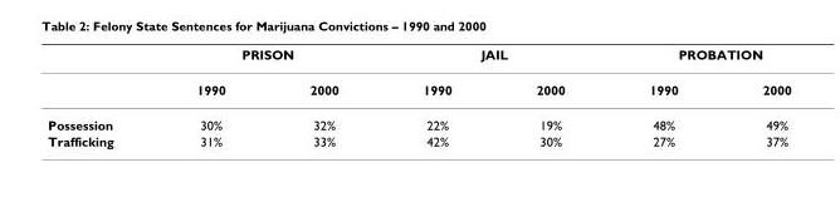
<table><thead><tr><td rowspan="2"></td><td colspan="2">PRISON</td><td colspan="2">JAIL</td><td colspan="2">PROBATION</td></tr><tr><td>1990</td><td>2000</td><td>1990</td><td>2000</td><td>1990</td><td>2000</td></tr></thead><tbody><tr><td>Possession</td><td>30%</td><td>32%</td><td>22%</td><td>19%</td><td>48%</td><td>49%</td></tr><tr><td>Trafficking</td><td>31%</td><td>33%</td><td>42%</td><td>30%</td><td>27%</td><td>37%</td></tr></tbody></table>